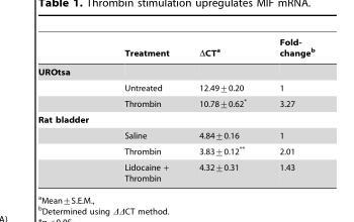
<table><thead><tr><td></td><td>Treatment</td><td>DCTa</td><td>Fold- change<sup>b</sup></td></tr></thead><tbody><tr><td colspan="4">UROtsa</td></tr><tr><td></td><td>Untreated</td><td>12.49+0.20</td><td>1</td></tr><tr><td></td><td>Thrombin</td><td>10.78+0.62*</td><td>3.27</td></tr><tr><td colspan="4">Rat bladder</td></tr><tr><td></td><td>Saline</td><td>4.84+0.16</td><td>1</td></tr><tr><td></td><td>Thrombin</td><td>3.83+0.12**</td><td>2.01</td></tr><tr><td></td><td>Lidocaine + Thrombin</td><td>4.32+0.31</td><td>1.43</td></tr></tbody></table>